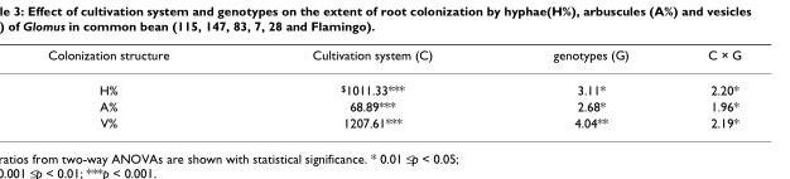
<table><thead><tr><td>Colonization structure</td><td>Cultivation system (C)</td><td>genotypes (G)</td><td>C × G</td></tr></thead><tbody><tr><td>H%</td><td><sup>$</sup>1011.33***</td><td>3.11*</td><td>2.20*</td></tr><tr><td>A%</td><td>68.89***</td><td>2.68*</td><td>1.96*</td></tr><tr><td>V%</td><td>1207.61***</td><td>4.04**</td><td>2.19*</td></tr></tbody></table>